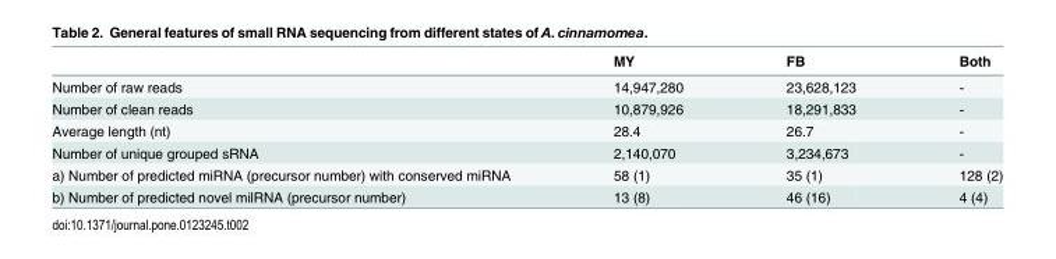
<table><thead><tr><td></td><td>MY</td><td>FB</td><td>Both</td></tr></thead><tbody><tr><td>Number of raw reads</td><td>14,947,280</td><td>23,628,123</td><td>-</td></tr><tr><td>Number of clean reads</td><td>10,879,926</td><td>18,291,833</td><td>-</td></tr><tr><td>Average length (nt)</td><td>28.4</td><td>26.7</td><td>-</td></tr><tr><td>Number of unique grouped sRNA</td><td>2,140,070</td><td>3,234,673</td><td>-</td></tr><tr><td>a) Number of predicted miRNA (precursor number) with conserved miRNA</td><td>58 (1)</td><td>35 (1)</td><td>128 (2)</td></tr><tr><td>b) Number of predicted novel milRNA (precursor number)</td><td>13 (8)</td><td>46 (16)</td><td>4 (4)</td></tr></tbody></table>